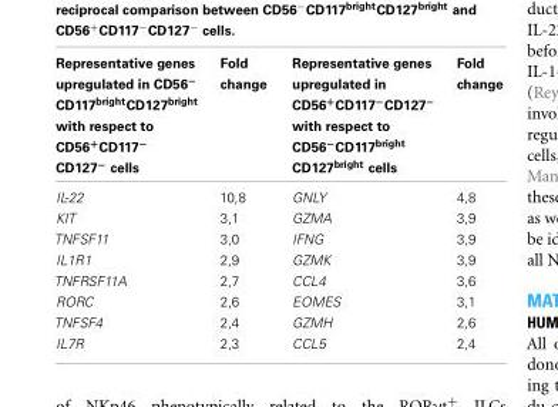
<table><thead><tr><td>Representative genes upregulated in CD56<sup>−</sup> CD117<sup>bright</sup>CD127<sup>bright</sup> with respect to CD56<sup>+</sup>CD117<sup>−</sup> CD127<sup>−</sup> cells</td><td>Fold change</td><td>Representative genes upregulated in CD56<sup>+</sup>CD117<sup>−</sup>CD127<sup>−</sup> with respect to CD56<sup>−</sup>CD117<sup>bright</sup> CD127<sup>bright</sup> cells</td><td>Fold change</td></tr></thead><tbody><tr><td>IL-22</td><td>10,8</td><td>GNLY</td><td>4,8</td></tr><tr><td>KIT</td><td>3,1</td><td>GZMA</td><td>3,9</td></tr><tr><td>TNFSF11</td><td>3,0</td><td>IFNG</td><td>3,9</td></tr><tr><td>IL1R1</td><td>2,9</td><td>GZMK</td><td>3,9</td></tr><tr><td>TNFRSF11A</td><td>2,7</td><td>CCL4</td><td>3,6</td></tr><tr><td>RORC</td><td>2,6</td><td>EOMES</td><td>3,1</td></tr><tr><td>TNFSF4</td><td>2,4</td><td>GZMH</td><td>2,6</td></tr><tr><td>IL7R</td><td>2,3</td><td>CCL5</td><td>2,4</td></tr></tbody></table>